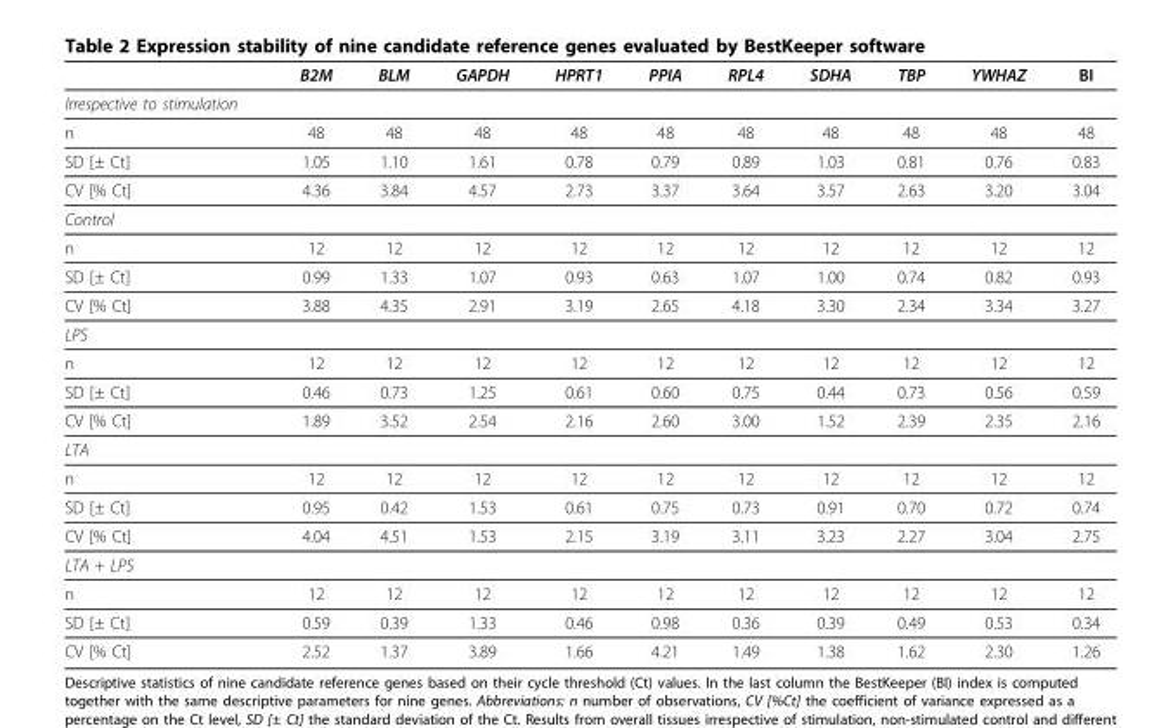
<table><thead><tr><td></td><td>B2M</td><td>BLM</td><td>GAPDH</td><td>HPRT1</td><td>PPIA</td><td>RPL4</td><td>SDHA</td><td>TBP</td><td>YWHAZ</td><td>BI</td></tr></thead><tbody><tr><td colspan="11">Irrespective to stimulation</td></tr><tr><td>n</td><td>48</td><td>48</td><td>48</td><td>48</td><td>48</td><td>48</td><td>48</td><td>48</td><td>48</td><td>48</td></tr><tr><td>SD [± Ct]</td><td>1.05</td><td>1.10</td><td>1.61</td><td>0.78</td><td>0.79</td><td>0.89</td><td>1.03</td><td>0.81</td><td>0.76</td><td>0.83</td></tr><tr><td>CV [% Ct]</td><td>4.36</td><td>3.84</td><td>4.57</td><td>2.73</td><td>3.37</td><td>3.64</td><td>3.57</td><td>2.63</td><td>3.20</td><td>3.04</td></tr><tr><td colspan="11">Control</td></tr><tr><td>n</td><td>12</td><td>12</td><td>12</td><td>12</td><td>12</td><td>12</td><td>12</td><td>12</td><td>12</td><td>12</td></tr><tr><td>SD [± Ct]</td><td>0.99</td><td>1.33</td><td>1.07</td><td>0.93</td><td>0.63</td><td>1.07</td><td>1.00</td><td>0.74</td><td>0.82</td><td>0.93</td></tr><tr><td>CV [% Ct]</td><td>3.88</td><td>4.35</td><td>2.91</td><td>3.19</td><td>2.65</td><td>4.18</td><td>3.30</td><td>2.34</td><td>3.34</td><td>3.27</td></tr><tr><td colspan="11">LPS</td></tr><tr><td>n</td><td>12</td><td>12</td><td>12</td><td>12</td><td>12</td><td>12</td><td>12</td><td>12</td><td>12</td><td>12</td></tr><tr><td>SD [± Ct]</td><td>0.46</td><td>0.73</td><td>1.25</td><td>0.61</td><td>0.60</td><td>0.75</td><td>0.44</td><td>0.73</td><td>0.56</td><td>0.59</td></tr><tr><td>CV [% Ct]</td><td>1.89</td><td>3.52</td><td>2.54</td><td>2.16</td><td>2.60</td><td>3.00</td><td>1.52</td><td>2.39</td><td>2.35</td><td>2.16</td></tr><tr><td colspan="11">LTA</td></tr><tr><td>n</td><td>12</td><td>12</td><td>12</td><td>12</td><td>12</td><td>12</td><td>12</td><td>12</td><td>12</td><td>12</td></tr><tr><td>SD [± Ct]</td><td>0.95</td><td>0.42</td><td>1.53</td><td>0.61</td><td>0.75</td><td>0.73</td><td>0.91</td><td>0.70</td><td>0.72</td><td>0.74</td></tr><tr><td>CV [% Ct]</td><td>4.04</td><td>4.51</td><td>1.53</td><td>2.15</td><td>3.19</td><td>3.11</td><td>3.23</td><td>2.27</td><td>3.04</td><td>2.75</td></tr><tr><td colspan="11">LTA + LPS</td></tr><tr><td>n</td><td>12</td><td>12</td><td>12</td><td>12</td><td>12</td><td>12</td><td>12</td><td>12</td><td>12</td><td>12</td></tr><tr><td>SD [± Ct]</td><td>0.59</td><td>0.39</td><td>1.33</td><td>0.46</td><td>0.98</td><td>0.36</td><td>0.39</td><td>0.49</td><td>0.53</td><td>0.34</td></tr><tr><td>CV [% Ct]</td><td>2.52</td><td>1.37</td><td>3.89</td><td>1.66</td><td>4.21</td><td>1.49</td><td>1.38</td><td>1.62</td><td>2.30</td><td>1.26</td></tr></tbody></table>